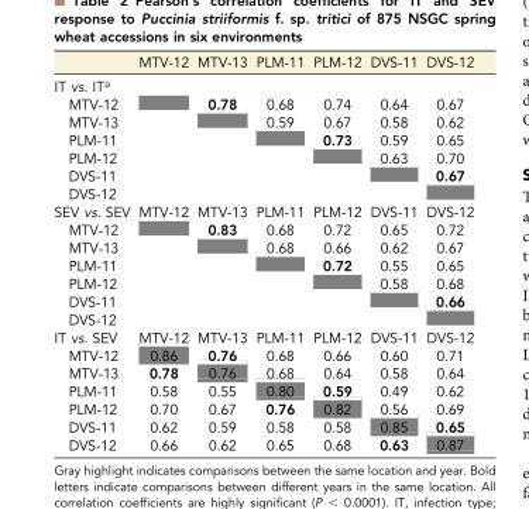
<table><thead><tr><td></td><td>MTV-12</td><td>MTV-13</td><td>PLM-11</td><td>PLM-12</td><td>DVS-11</td><td>DVS-12</td></tr></thead><tbody><tr><td colspan="7">IT vs. IT<sup>a</sup></td></tr><tr><td>MTV-12</td><td></td><td>0.78</td><td>0.68</td><td>0.74</td><td>0.64</td><td>0.67</td></tr><tr><td>MTV-13</td><td></td><td></td><td>0.59</td><td>0.67</td><td>0.58</td><td>0.62</td></tr><tr><td>PLM-11</td><td></td><td></td><td></td><td>0.73</td><td>0.59</td><td>0.65</td></tr><tr><td>PLM-12</td><td></td><td></td><td></td><td></td><td>0.63</td><td>0.70</td></tr><tr><td>DVS-11</td><td></td><td></td><td></td><td></td><td></td><td>0.67</td></tr><tr><td colspan="7">DVS-12</td></tr><tr><td>SEV vs. SEV</td><td>MTV-12</td><td>MTV-13</td><td>PLM-11</td><td>PLM-12</td><td>DVS-11</td><td>DVS-12</td></tr><tr><td>MTV-12</td><td></td><td>0.83</td><td>0.68</td><td>0.72</td><td>0.65</td><td>0.72</td></tr><tr><td>MTV-13</td><td></td><td></td><td>0.68</td><td>0.66</td><td>0.62</td><td>0.67</td></tr><tr><td>PLM-11</td><td></td><td></td><td></td><td>0.72</td><td>0.55</td><td>0.65</td></tr><tr><td>PLM-12</td><td></td><td></td><td></td><td></td><td>0.58</td><td>0.68</td></tr><tr><td>DVS-11</td><td></td><td></td><td></td><td></td><td></td><td>0.66</td></tr><tr><td colspan="7">DVS-12</td></tr><tr><td>IT vs. SEV</td><td>MTV-12</td><td>MTV-13</td><td>PLM-11</td><td>PLM-12</td><td>DVS-11</td><td>DVS-12</td></tr><tr><td>MTV-12</td><td>0.86</td><td>0.76</td><td>0.68</td><td>0.66</td><td>0.60</td><td>0.71</td></tr><tr><td>MTV-13</td><td>0.78</td><td>0.76</td><td>0.68</td><td>0.64</td><td>0.58</td><td>0.64</td></tr><tr><td>PLM-11</td><td>0.58</td><td>0.55</td><td>0.80</td><td>0.59</td><td>0.49</td><td>0.62</td></tr><tr><td>PLM-12</td><td>0.70</td><td>0.67</td><td>0.76</td><td>0.82</td><td>0.56</td><td>0.69</td></tr><tr><td>DVS-11</td><td>0.62</td><td>0.59</td><td>0.58</td><td>0.58</td><td>0.85</td><td>0.65</td></tr><tr><td>DVS-12</td><td>0.66</td><td>0.62</td><td>0.65</td><td>0.68</td><td>0.63</td><td>0.87</td></tr></tbody></table>